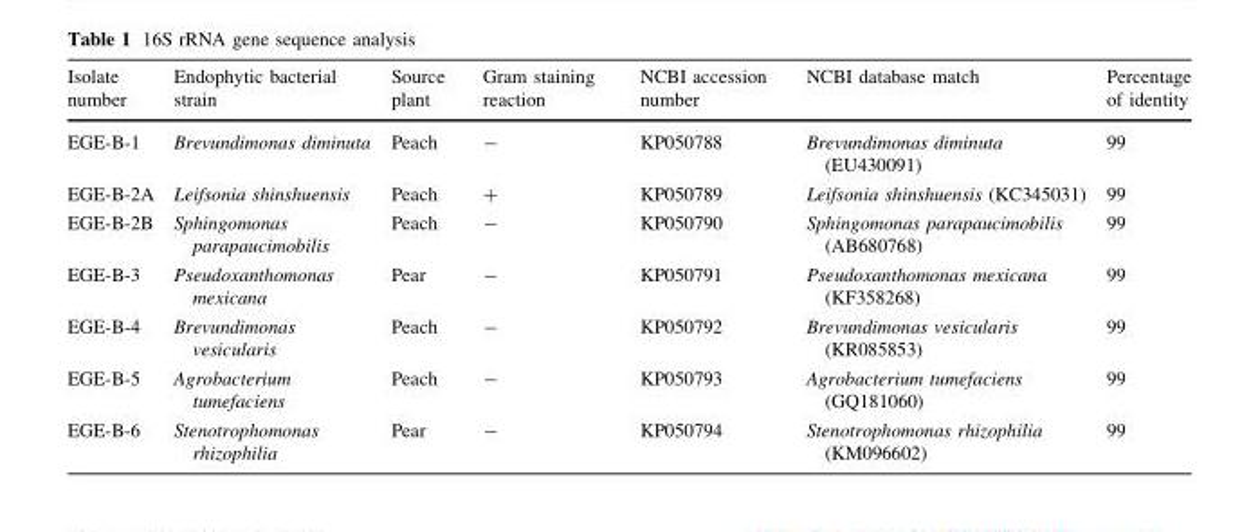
<table><thead><tr><td>Isolate number</td><td>Endophytic bacterial strain</td><td>Source plant</td><td>Gram staining reaction</td><td>NCBI accession number</td><td>NCBI database match</td><td>Percentage of identity</td></tr></thead><tbody><tr><td>EGE-B-1</td><td>Brevundimonas diminuta</td><td>Peach</td><td>-</td><td>KP050788</td><td>Brevundimonas diminuta (EU430091)</td><td>99</td></tr><tr><td>EGE-B-2A</td><td>Leifsonia shinshuensis</td><td>Peach</td><td>+</td><td>KP050789</td><td>Leifsonia shinshuensis (KC345031)</td><td>99</td></tr><tr><td>EGE-B-2B</td><td>Sphingomonas parapaucimobilis</td><td>Peach</td><td>-</td><td>KP050790</td><td>Sphingomonas parapaucimobilis (AB680768)</td><td>99</td></tr><tr><td>EGE-B-3</td><td>Pseudoxanthomonas mexicana</td><td>Pear</td><td>-</td><td>KP050791</td><td>Pseudoxanthomonas mexicana (KF358268)</td><td>99</td></tr><tr><td>EGE-B-4</td><td>Brevundimonas vesicularis</td><td>Peach</td><td>-</td><td>KP050792</td><td>Brevundimonas vesicularis (KR085853)</td><td>99</td></tr><tr><td>EGE-B-5</td><td>Agrobacterium tumefaciens</td><td>Peach</td><td>-</td><td>KP050793</td><td>Agrobacterium tumefaciens (GQ181060)</td><td>99</td></tr><tr><td>EGE-B-6</td><td>Stenotrophomonas rhizophilia</td><td>Pear</td><td>-</td><td>KP050794</td><td>Stenotrophomonas rhizophilia (KM096602)</td><td>99</td></tr></tbody></table>